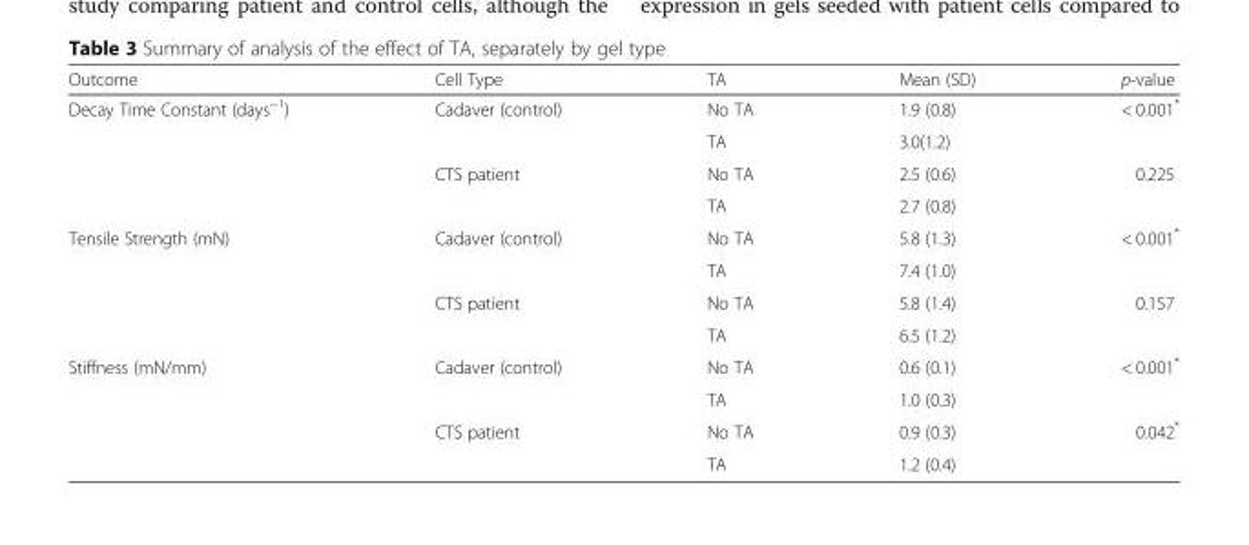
<table><thead><tr><td>Outcome</td><td>Cell Type</td><td>TA</td><td>Mean (SD)</td><td>p-value</td></tr></thead><tbody><tr><td rowspan="4">Decay Time Constant (days<sup>−1</sup>)</td><td rowspan="2">Cadaver (control)</td><td>No TA</td><td>1.9 (0.8)</td><td rowspan="2">&lt; 0.001*</td></tr><tr><td>TA</td><td>3.0(1.2)</td></tr><tr><td rowspan="2">CTS patient</td><td>No TA</td><td>2.5 (0.6)</td><td rowspan="2">0.225</td></tr><tr><td>TA</td><td>2.7 (0.8)</td></tr><tr><td rowspan="4">Tensile Strength (mN)</td><td rowspan="2">Cadaver (control)</td><td>No TA</td><td>5.8 (1.3)</td><td rowspan="2">&lt; 0.001*</td></tr><tr><td>TA</td><td>7.4 (1.0)</td></tr><tr><td rowspan="2">CTS patient</td><td>No TA</td><td>5.8 (1.4)</td><td rowspan="2">0.157</td></tr><tr><td>TA</td><td>6.5 (1.2)</td></tr><tr><td rowspan="4">Stiffness (mN/mm)</td><td rowspan="2">Cadaver (control)</td><td>No TA</td><td>0.6 (0.1)</td><td rowspan="2">&lt; 0.001*</td></tr><tr><td>TA</td><td>1.0 (0.3)</td></tr><tr><td rowspan="2">CTS patient</td><td>No TA</td><td>0.9 (0.3)</td><td rowspan="2">0.042*</td></tr><tr><td>TA</td><td>1.2 (0.4)</td></tr></tbody></table>